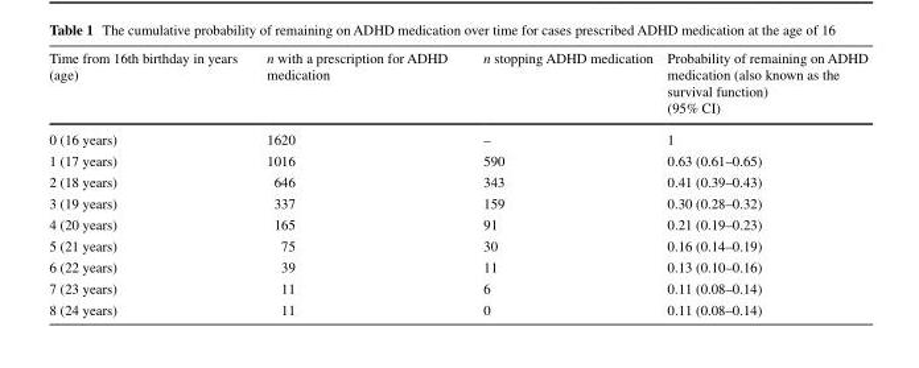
<table><thead><tr><td>Time from 16th birthday in years (age)</td><td>n with a prescription for ADHD medication</td><td>n stopping ADHD medication</td><td>Probability of remaining on ADHD medication (also known as the survival function) (95% CI)</td></tr></thead><tbody><tr><td>0 (16 years)</td><td>1620</td><td>–</td><td>1</td></tr><tr><td>1 (17 years)</td><td>1016</td><td>590</td><td>0.63 (0.61–0.65)</td></tr><tr><td>2 (18 years)</td><td>646</td><td>343</td><td>0.41 (0.39–0.43)</td></tr><tr><td>3 (19 years)</td><td>337</td><td>159</td><td>0.30 (0.28–0.32)</td></tr><tr><td>4 (20 years)</td><td>165</td><td>91</td><td>0.21 (0.19–0.23)</td></tr><tr><td>5 (21 years)</td><td>75</td><td>30</td><td>0.16 (0.14–0.19)</td></tr><tr><td>6 (22 years)</td><td>39</td><td>11</td><td>0.13 (0.10–0.16)</td></tr><tr><td>7 (23 years)</td><td>11</td><td>6</td><td>0.11 (0.08–0.14)</td></tr><tr><td>8 (24 years)</td><td>11</td><td>0</td><td>0.11 (0.08–0.14)</td></tr></tbody></table>